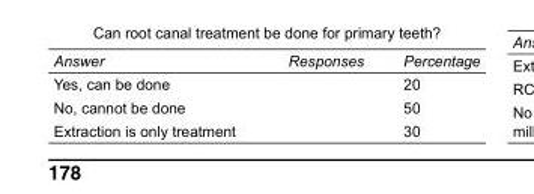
<table><tbody><tr><td>Answer</td><td>Responses</td><td>Percentage</td></tr><tr><td>Yes, can be done</td><td></td><td>20</td></tr><tr><td>No, cannot be done</td><td></td><td>50</td></tr><tr><td>Extraction is only treatment</td><td></td><td>30</td></tr></tbody></table>